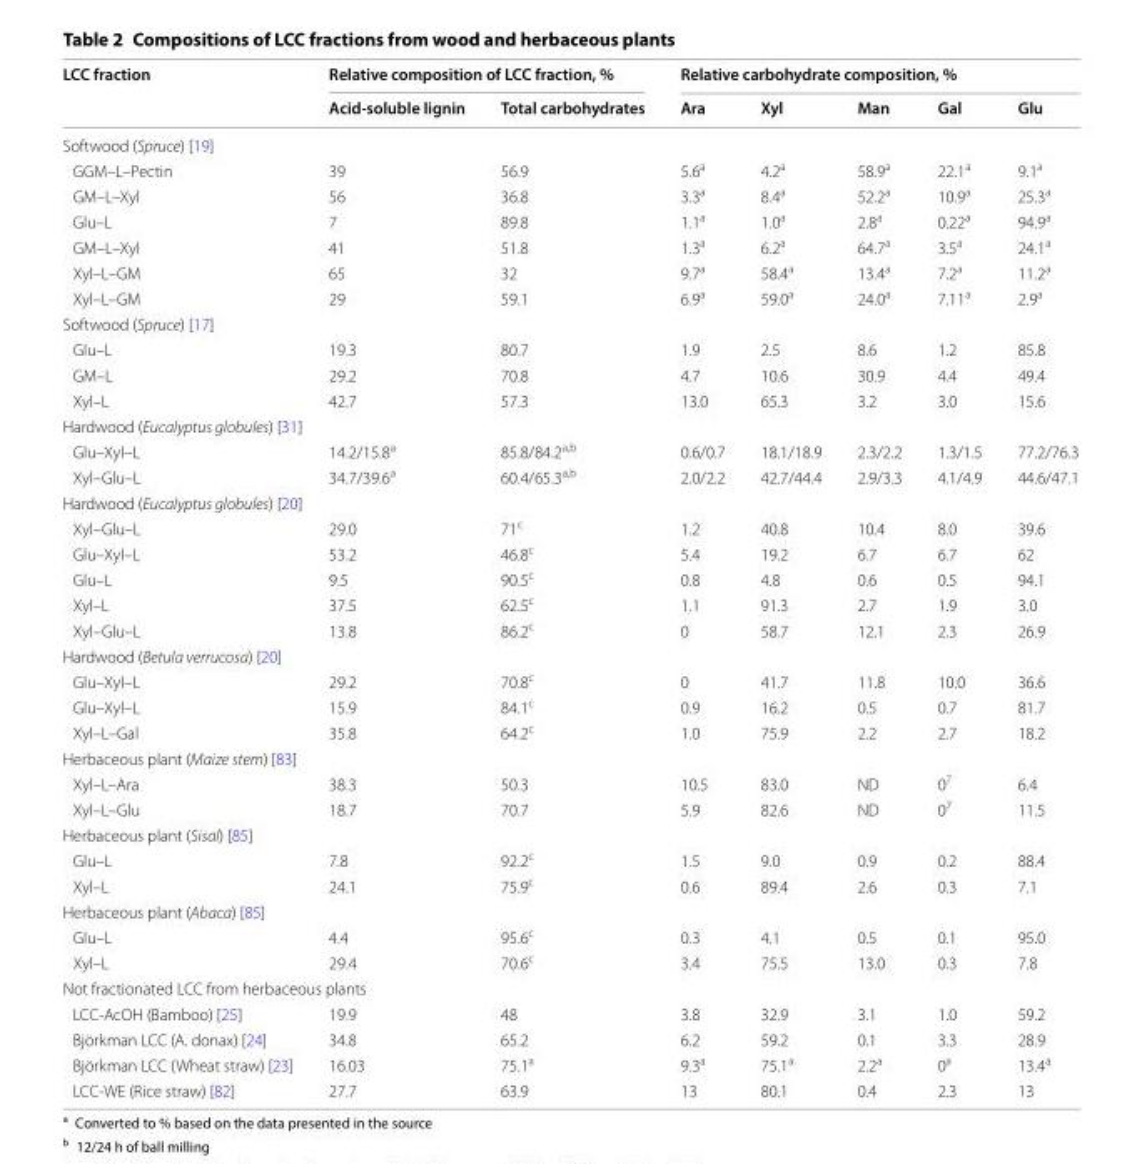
<table><thead><tr><td rowspan="2">LCC fraction</td><td colspan="2">Relative composition of LCC fraction, %</td><td colspan="5">Relative carbohydrate composition, %</td></tr><tr><td>Acid-soluble lignin</td><td>Total carbohydrates</td><td>Ara</td><td>Xyl</td><td>Man</td><td>Gal</td><td>Glu</td></tr></thead><tbody><tr><td colspan="8">Softwood (Spruce) [19]</td></tr><tr><td>GGM–L–Pectin</td><td>39</td><td>56.9</td><td>5.6<sup>a</sup></td><td>4.2<sup>a</sup></td><td>58.9<sup>a</sup></td><td>22.1<sup>a</sup></td><td>9.1<sup>a</sup></td></tr><tr><td>GM–L–Xyl</td><td>56</td><td>36.8</td><td>3.3<sup>a</sup></td><td>8.4<sup>a</sup></td><td>52.2<sup>a</sup></td><td>10.9<sup>a</sup></td><td>25.3<sup>a</sup></td></tr><tr><td>Glu–L</td><td>7</td><td>89.8</td><td>1.1<sup>a</sup></td><td>1.0<sup>a</sup></td><td>2.8<sup>a</sup></td><td>0.22<sup>a</sup></td><td>94.9<sup>a</sup></td></tr><tr><td>GM–L–Xyl</td><td>41</td><td>51.8</td><td>1.3<sup>a</sup></td><td>6.2<sup>a</sup></td><td>64.7<sup>a</sup></td><td>3.5<sup>a</sup></td><td>24.1<sup>a</sup></td></tr><tr><td>Xyl–L–GM</td><td>65</td><td>32</td><td>9.7<sup>a</sup></td><td>58.4<sup>a</sup></td><td>13.4<sup>a</sup></td><td>7.2<sup>a</sup></td><td>11.2<sup>a</sup></td></tr><tr><td>Xyl–L–GM</td><td>29</td><td>59.1</td><td>6.9<sup>a</sup></td><td>59.0<sup>a</sup></td><td>24.0<sup>a</sup></td><td>7.11<sup>a</sup></td><td>2.9<sup>a</sup></td></tr><tr><td colspan="8">Softwood (Spruce) [17]</td></tr><tr><td>Glu–L</td><td>19.3</td><td>80.7</td><td>1.9</td><td>2.5</td><td>8.6</td><td>1.2</td><td>85.8</td></tr><tr><td>GM–L</td><td>29.2</td><td>70.8</td><td>4.7</td><td>10.6</td><td>30.9</td><td>4.4</td><td>49.4</td></tr><tr><td>Xyl–L</td><td>42.7</td><td>57.3</td><td>13.0</td><td>65.3</td><td>3.2</td><td>3.0</td><td>15.6</td></tr><tr><td colspan="8">Hardwood (Eucalyptus globules) [31]</td></tr><tr><td>Glu–Xyl–L</td><td>14.2/15.8<sup>a</sup></td><td>85.8/84.2<sup>a,b</sup></td><td>0.6/0.7</td><td>18.1/18.9</td><td>2.3/2.2</td><td>1.3/1.5</td><td>77.2/76.3</td></tr><tr><td>Xyl–Glu–L</td><td>34.7/39.6<sup>a</sup></td><td>60.4/65.3<sup>a,b</sup></td><td>2.0/2.2</td><td>42.7/44.4</td><td>2.9/3.3</td><td>4.1/4.9</td><td>44.6/47.1</td></tr><tr><td colspan="8">Hardwood (Eucalyptus globules) [20]</td></tr><tr><td>Xyl–Glu–L</td><td>29.0</td><td>71<sup>c</sup></td><td>1.2</td><td>40.8</td><td>10.4</td><td>8.0</td><td>39.6</td></tr><tr><td>Glu–Xyl–L</td><td>53.2</td><td>46.8<sup>c</sup></td><td>5.4</td><td>19.2</td><td>6.7</td><td>6.7</td><td>62</td></tr><tr><td>Glu–L</td><td>9.5</td><td>90.5<sup>c</sup></td><td>0.8</td><td>4.8</td><td>0.6</td><td>0.5</td><td>94.1</td></tr><tr><td>Xyl–L</td><td>37.5</td><td>62.5<sup>c</sup></td><td>1.1</td><td>91.3</td><td>2.7</td><td>1.9</td><td>3.0</td></tr><tr><td>Xyl–Glu–L</td><td>13.8</td><td>86.2<sup>c</sup></td><td>0</td><td>58.7</td><td>12.1</td><td>2.3</td><td>26.9</td></tr><tr><td colspan="8">Hardwood (Betula verrucosa) [20]</td></tr><tr><td>Glu–Xyl–L</td><td>29.2</td><td>70.8<sup>c</sup></td><td>0</td><td>41.7</td><td>11.8</td><td>10.0</td><td>36.6</td></tr><tr><td>Glu–Xyl–L</td><td>15.9</td><td>84.1<sup>c</sup></td><td>0.9</td><td>16.2</td><td>0.5</td><td>0.7</td><td>81.7</td></tr><tr><td>Xyl–L–Gal</td><td>35.8</td><td>64.2<sup>c</sup></td><td>1.0</td><td>75.9</td><td>2.2</td><td>2.7</td><td>18.2</td></tr><tr><td colspan="8">Herbaceous plant (Maize stem) [83]</td></tr><tr><td>Xyl–L–Ara</td><td>38.3</td><td>50.3</td><td>10.5</td><td>83.0</td><td>ND</td><td>0<sup>7</sup></td><td>6.4</td></tr><tr><td>Xyl–L–Glu</td><td>18.7</td><td>70.7</td><td>5.9</td><td>82.6</td><td>ND</td><td>0<sup>7</sup></td><td>11.5</td></tr><tr><td colspan="8">Herbaceous plant (Sisal) [85]</td></tr><tr><td>Glu–L</td><td>7.8</td><td>92.2<sup>c</sup></td><td>1.5</td><td>9.0</td><td>0.9</td><td>0.2</td><td>88.4</td></tr><tr><td>Xyl–L</td><td>24.1</td><td>75.9<sup>c</sup></td><td>0.6</td><td>89.4</td><td>2.6</td><td>0.3</td><td>7.1</td></tr><tr><td colspan="8">Herbaceous plant (Abaca) [85]</td></tr><tr><td>Glu–L</td><td>4.4</td><td>95.6<sup>c</sup></td><td>0.3</td><td>4.1</td><td>0.5</td><td>0.1</td><td>95.0</td></tr><tr><td>Xyl–L</td><td>29.4</td><td>70.6<sup>c</sup></td><td>3.4</td><td>75.5</td><td>13.0</td><td>0.3</td><td>7.8</td></tr><tr><td colspan="8">Not fractionated LCC from herbaceous plants</td></tr><tr><td>LCC-AcOH (Bamboo) [25]</td><td>19.9</td><td>48</td><td>3.8</td><td>32.9</td><td>3.1</td><td>1.0</td><td>59.2</td></tr><tr><td>Björkman LCC (A. donax) [24]</td><td>34.8</td><td>65.2</td><td>6.2</td><td>59.2</td><td>0.1</td><td>3.3</td><td>28.9</td></tr><tr><td>Björkman LCC (Wheat straw) [23]</td><td>16.03</td><td>75.1<sup>a</sup></td><td>9.3<sup>a</sup></td><td>75.1<sup>a</sup></td><td>2.2<sup>a</sup></td><td>0<sup>a</sup></td><td>13.4<sup>a</sup></td></tr><tr><td>LCC-WE (Rice straw) [82]</td><td>27.7</td><td>63.9</td><td>13</td><td>80.1</td><td>0.4</td><td>2.3</td><td>13</td></tr></tbody></table>